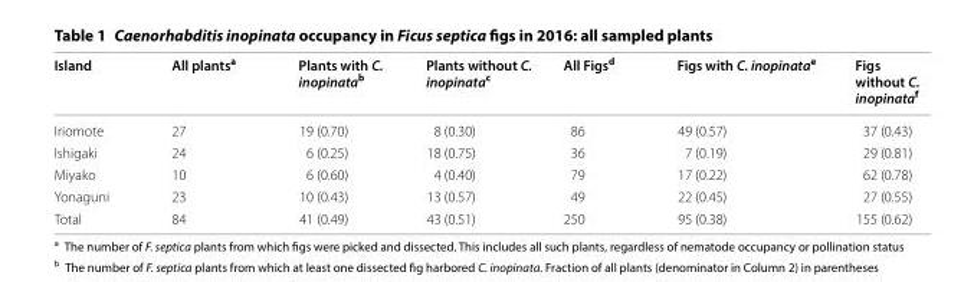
<table><thead><tr><td>Island</td><td>All plants<sup>a</sup></td><td>Plants with C. inopinata<sup>b</sup></td><td>Plants without C. inopinata<sup>c</sup></td><td>All Figs<sup>d</sup></td><td>Figs with C. inopinata<sup>e</sup></td><td>Figs without C. inopinata<sup>f</sup></td></tr></thead><tbody><tr><td>Iriomote</td><td>27</td><td>19 (0.70)</td><td>8 (0.30)</td><td>86</td><td>49 (0.57)</td><td>37 (0.43)</td></tr><tr><td>Ishigaki</td><td>24</td><td>6 (0.25)</td><td>18 (0.75)</td><td>36</td><td>7 (0.19)</td><td>29 (0.81)</td></tr><tr><td>Miyako</td><td>10</td><td>6 (0.60)</td><td>4 (0.40)</td><td>79</td><td>17 (0.22)</td><td>62 (0.78)</td></tr><tr><td>Yonaguni</td><td>23</td><td>10 (0.43)</td><td>13 (0.57)</td><td>49</td><td>22 (0.45)</td><td>27 (0.55)</td></tr><tr><td>Total</td><td>84</td><td>41 (0.49)</td><td>43 (0.51)</td><td>250</td><td>95 (0.38)</td><td>155 (0.62)</td></tr></tbody></table>